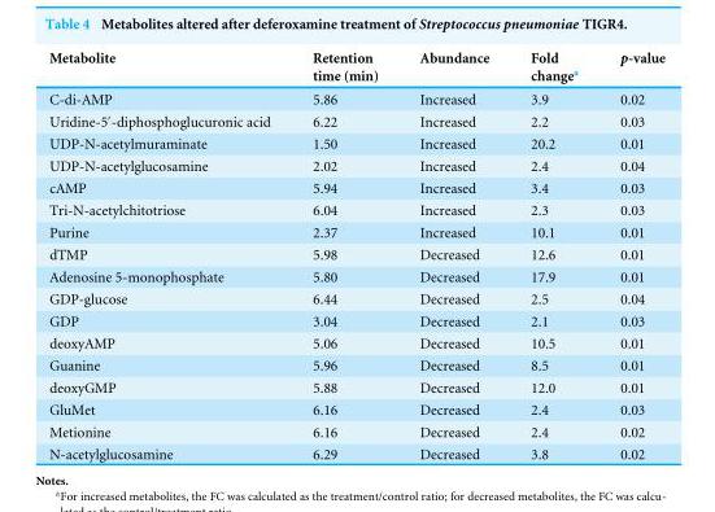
<table><thead><tr><td>Metabolite</td><td>Retention time (min)</td><td>Abundance</td><td>Fold change<sup>a</sup></td><td>p-value</td></tr></thead><tbody><tr><td>C-di-AMP</td><td>5.86</td><td>Increased</td><td>3.9</td><td>0.02</td></tr><tr><td>Uridine-5′-diphosphoglucuronic acid</td><td>6.22</td><td>Increased</td><td>2.2</td><td>0.03</td></tr><tr><td>UDP-N-acetylmuraminate</td><td>1.50</td><td>Increased</td><td>20.2</td><td>0.01</td></tr><tr><td>UDP-N-acetylglucosamine</td><td>2.02</td><td>Increased</td><td>2.4</td><td>0.04</td></tr><tr><td>cAMP</td><td>5.94</td><td>Increased</td><td>3.4</td><td>0.03</td></tr><tr><td>Tri-N-acetylchitotriose</td><td>6.04</td><td>Increased</td><td>2.3</td><td>0.03</td></tr><tr><td>Purine</td><td>2.37</td><td>Increased</td><td>10.1</td><td>0.01</td></tr><tr><td>dTMP</td><td>5.98</td><td>Decreased</td><td>12.6</td><td>0.01</td></tr><tr><td>Adenosine 5-monophosphate</td><td>5.80</td><td>Decreased</td><td>17.9</td><td>0.01</td></tr><tr><td>GDP-glucose</td><td>6.44</td><td>Decreased</td><td>2.5</td><td>0.04</td></tr><tr><td>GDP</td><td>3.04</td><td>Decreased</td><td>2.1</td><td>0.03</td></tr><tr><td>deoxyAMP</td><td>5.06</td><td>Decreased</td><td>10.5</td><td>0.01</td></tr><tr><td>Guanine</td><td>5.96</td><td>Decreased</td><td>8.5</td><td>0.01</td></tr><tr><td>deoxyGMP</td><td>5.88</td><td>Decreased</td><td>12.0</td><td>0.01</td></tr><tr><td>GluMet</td><td>6.16</td><td>Decreased</td><td>2.4</td><td>0.03</td></tr><tr><td>Metionine</td><td>6.16</td><td>Decreased</td><td>2.4</td><td>0.02</td></tr><tr><td>N-acetylglucosamine</td><td>6.29</td><td>Decreased</td><td>3.8</td><td>0.02</td></tr></tbody></table>